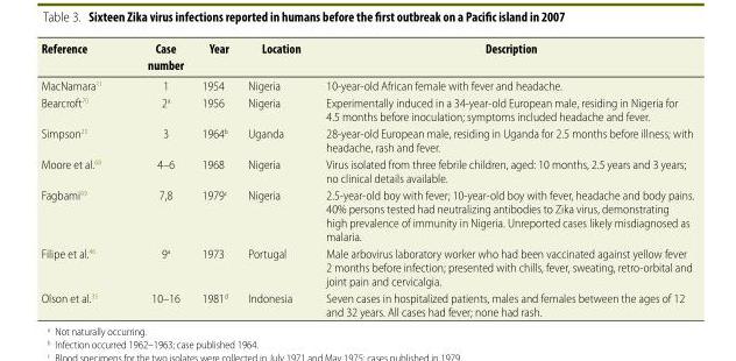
<table><thead><tr><td>Reference</td><td>Case number</td><td>Year</td><td>Location</td><td>Description</td></tr></thead><tbody><tr><td>MacNamara<sup>11</sup></td><td>1</td><td>1954</td><td>Nigeria</td><td>10-year-old African female with fever and headache.</td></tr><tr><td>Bearcroft<sup>70</sup></td><td>2<sup>a</sup></td><td>1956</td><td>Nigeria</td><td>Experimentally induced in a 34-year-old European male, residing in Nigeria for 4.5 months before inoculation; symptoms included headache and fever.</td></tr><tr><td>Simpson<sup>25</sup></td><td>3</td><td>1964<sup>b</sup></td><td>Uganda</td><td>28-year-old European male, residing in Uganda for 2.5 months before illness; with headache, rash and fever.</td></tr><tr><td>Moore et al.<sup>68</sup></td><td>4–6</td><td>1968</td><td>Nigeria</td><td>Virus isolated from three febrile children, aged: 10 months, 2.5 years and 3 years; no clinical details available.</td></tr><tr><td>Fagbami<sup>69</sup></td><td>7,8</td><td>1979<sup>c</sup></td><td>Nigeria</td><td>2.5-year-old boy with fever; 10-year-old boy with fever, headache and body pains. 40% persons tested had neutralizing antibodies to Zika virus, demonstrating high prevalence of immunity in Nigeria. Unreported cases likely misdiagnosed as malaria.</td></tr><tr><td>Filipe et al.<sup>46</sup></td><td>9<sup>a</sup></td><td>1973</td><td>Portugal</td><td>Male arbovirus laboratory worker who had been vaccinated against yellow fever 2 months before infection; presented with chills, fever, sweating, retro-orbital and joint pain and cervicalgia.</td></tr><tr><td>Olson et al.<sup>35</sup></td><td>10–16</td><td>1981<sup>d</sup></td><td>Indonesia</td><td>Seven cases in hospitalized patients, males and females between the ages of 12 and 32 years. All cases had fever; none had rash.</td></tr></tbody></table>